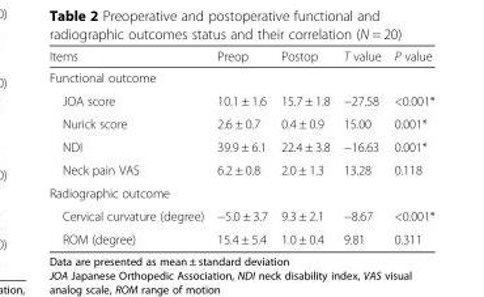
<table><thead><tr><td>Items</td><td>Preop</td><td>Postop</td><td>T value</td><td>P value</td></tr></thead><tbody><tr><td colspan="5">Functional outcome</td></tr><tr><td>JOA score</td><td>10.1 ± 1.6</td><td>15.7 ± 1.8</td><td>−27.58</td><td>&lt;0.001*</td></tr><tr><td>Nurick score</td><td>2.6 ± 0.7</td><td>0.4 ± 0.9</td><td>15.00</td><td>0.001*</td></tr><tr><td>NDI</td><td>39.9 ± 6.1</td><td>22.4 ± 3.8</td><td>−16.63</td><td>0.001*</td></tr><tr><td>Neck pain VAS</td><td>6.2 ± 0.8</td><td>2.0 ± 1.3</td><td>13.28</td><td>0.118</td></tr><tr><td colspan="5">Radiographic outcome</td></tr><tr><td>Cervical curvature (degree)</td><td>−5.0 ± 3.7</td><td>9.3 ± 2.1</td><td>−8.67</td><td>&lt;0.001*</td></tr><tr><td>ROM (degree)</td><td>15.4 ± 5.4</td><td>1.0 ± 0.4</td><td>9.81</td><td>0.311</td></tr></tbody></table>